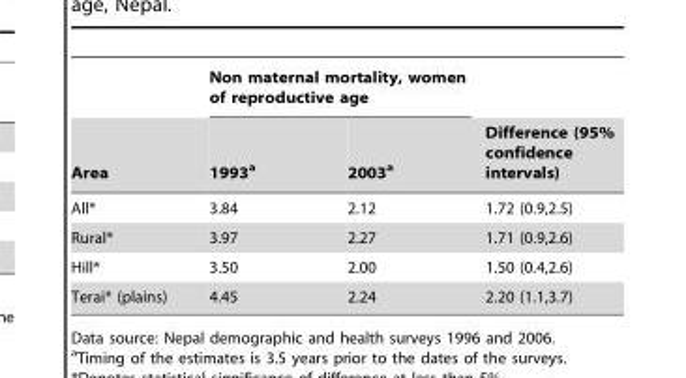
<table><thead><tr><td rowspan="2">Area</td><td colspan="2">Non maternal mortality, women of reproductive age</td><td rowspan="2">Difference (95% confidence intervals)</td></tr><tr><td>1993<sup>a</sup></td><td>2003<sup>a</sup></td></tr></thead><tbody><tr><td>All*</td><td>3.84</td><td>2.12</td><td>1.72 (0.9,2.5)</td></tr><tr><td>Rural*</td><td>3.97</td><td>2.27</td><td>1.71 (0.9,2.6)</td></tr><tr><td>Hill*</td><td>3.50</td><td>2.00</td><td>1.50 (0.4,2.6)</td></tr><tr><td>Terai* (plains)</td><td>4.45</td><td>2.24</td><td>2.20 (1.1,3.7)</td></tr></tbody></table>